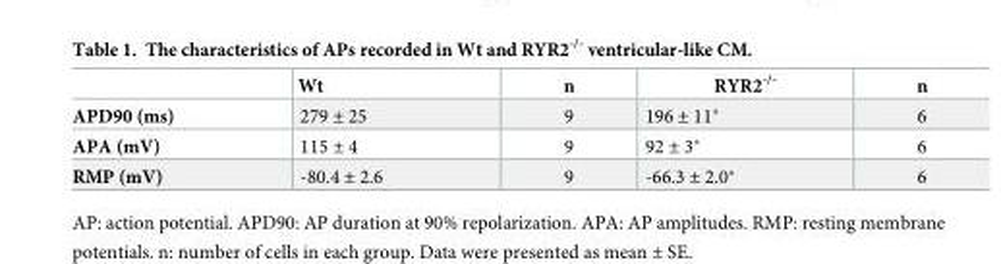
<table><thead><tr><td></td><td>Wt</td><td>n</td><td>RYR2<sup>-/-</sup></td><td>n</td></tr></thead><tbody><tr><td>APD90 (ms)</td><td>279 ± 25</td><td>9</td><td>196 ± 11*</td><td>6</td></tr><tr><td>APA (mV)</td><td>115 ± 4</td><td>9</td><td>92 ± 3*</td><td>6</td></tr><tr><td>RMP (mV)</td><td>-80.4 ± 2.6</td><td>9</td><td>-66.3 ± 2.0*</td><td>6</td></tr></tbody></table>